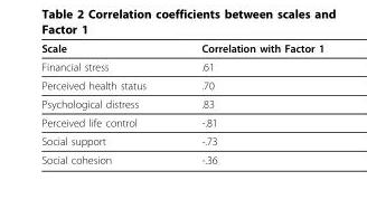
<table><thead><tr><td>Scale</td><td>Correlation with Factor 1</td></tr></thead><tbody><tr><td>Financial stress</td><td>.61</td></tr><tr><td>Perceived health status</td><td>.70</td></tr><tr><td>Psychological distress</td><td>.83</td></tr><tr><td>Perceived life control</td><td>-.81</td></tr><tr><td>Social support</td><td>-.73</td></tr><tr><td>Social cohesion</td><td>-.36</td></tr></tbody></table>